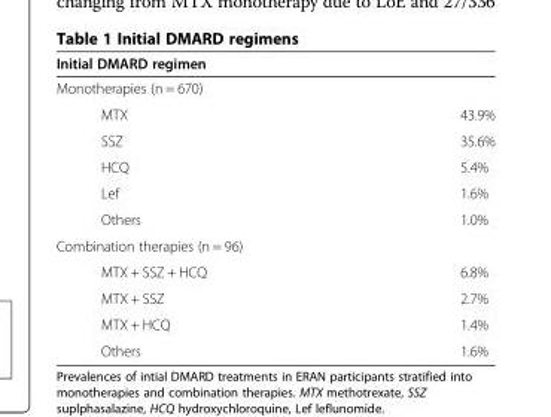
<table><thead><tr><td rowspan="2" colspan="2">Initial DMARD regimen Monotherapies (n = 670)</td></tr><tr></tr><tr><td>MTX</td><td>43.9%</td></tr></thead><tbody><tr><td>SSZ</td><td>35.6%</td></tr><tr><td>HCQ</td><td>5.4%</td></tr><tr><td>Lef</td><td>1.6%</td></tr><tr><td>Others</td><td>1.0%</td></tr><tr><td colspan="2">Combination therapies (n = 96)</td></tr><tr><td>MTX + SSZ + HCQ</td><td>6.8%</td></tr><tr><td>MTX + SSZ</td><td>2.7%</td></tr><tr><td>MTX + HCQ</td><td>1.4%</td></tr><tr><td>Others</td><td>1.6%</td></tr></tbody></table>